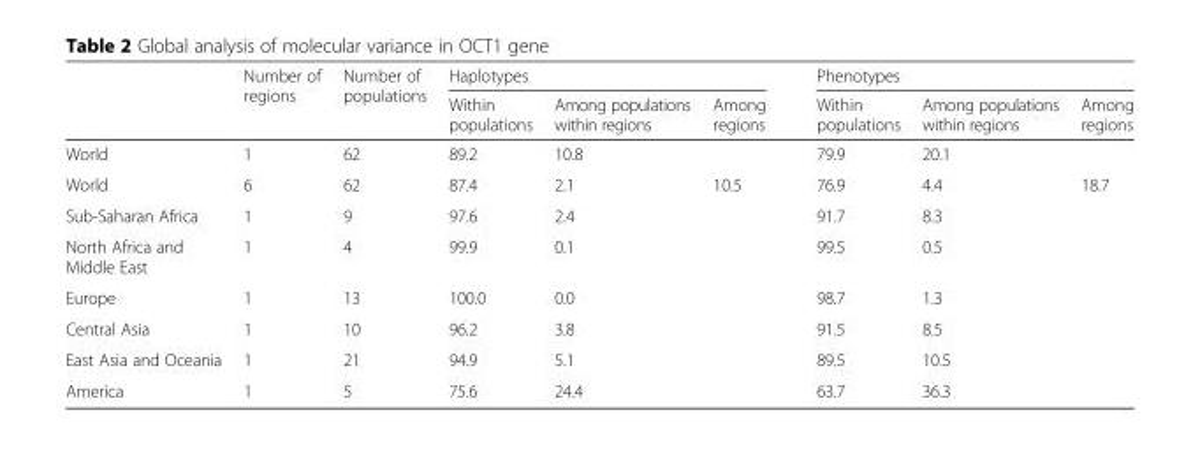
<table><thead><tr><td rowspan="2"></td><td rowspan="2">Number of regions</td><td rowspan="2">Number of populations</td><td colspan="3">Haplotypes</td><td colspan="3">Phenotypes</td></tr><tr><td>Within populations</td><td>Among populations within regions</td><td>Among regions</td><td>Within populations</td><td>Among populations within regions</td><td>Among regions</td></tr></thead><tbody><tr><td>World</td><td>1</td><td>62</td><td>89.2</td><td>10.8</td><td></td><td>79.9</td><td>20.1</td><td></td></tr><tr><td>World</td><td>6</td><td>62</td><td>87.4</td><td>2.1</td><td>10.5</td><td>76.9</td><td>4.4</td><td>18.7</td></tr><tr><td>Sub-Saharan Africa</td><td>1</td><td>9</td><td>97.6</td><td>2.4</td><td></td><td>91.7</td><td>8.3</td><td></td></tr><tr><td>North Africa and Middle East</td><td>1</td><td>4</td><td>99.9</td><td>0.1</td><td></td><td>99.5</td><td>0.5</td><td></td></tr><tr><td>Europe</td><td>1</td><td>13</td><td>100.0</td><td>0.0</td><td></td><td>98.7</td><td>1.3</td><td></td></tr><tr><td>Central Asia</td><td>1</td><td>10</td><td>96.2</td><td>3.8</td><td></td><td>91.5</td><td>8.5</td><td></td></tr><tr><td>East Asia and Oceania</td><td>1</td><td>21</td><td>94.9</td><td>5.1</td><td></td><td>89.5</td><td>10.5</td><td></td></tr><tr><td>America</td><td>1</td><td>5</td><td>75.6</td><td>24.4</td><td></td><td>63.7</td><td>36.3</td><td></td></tr></tbody></table>